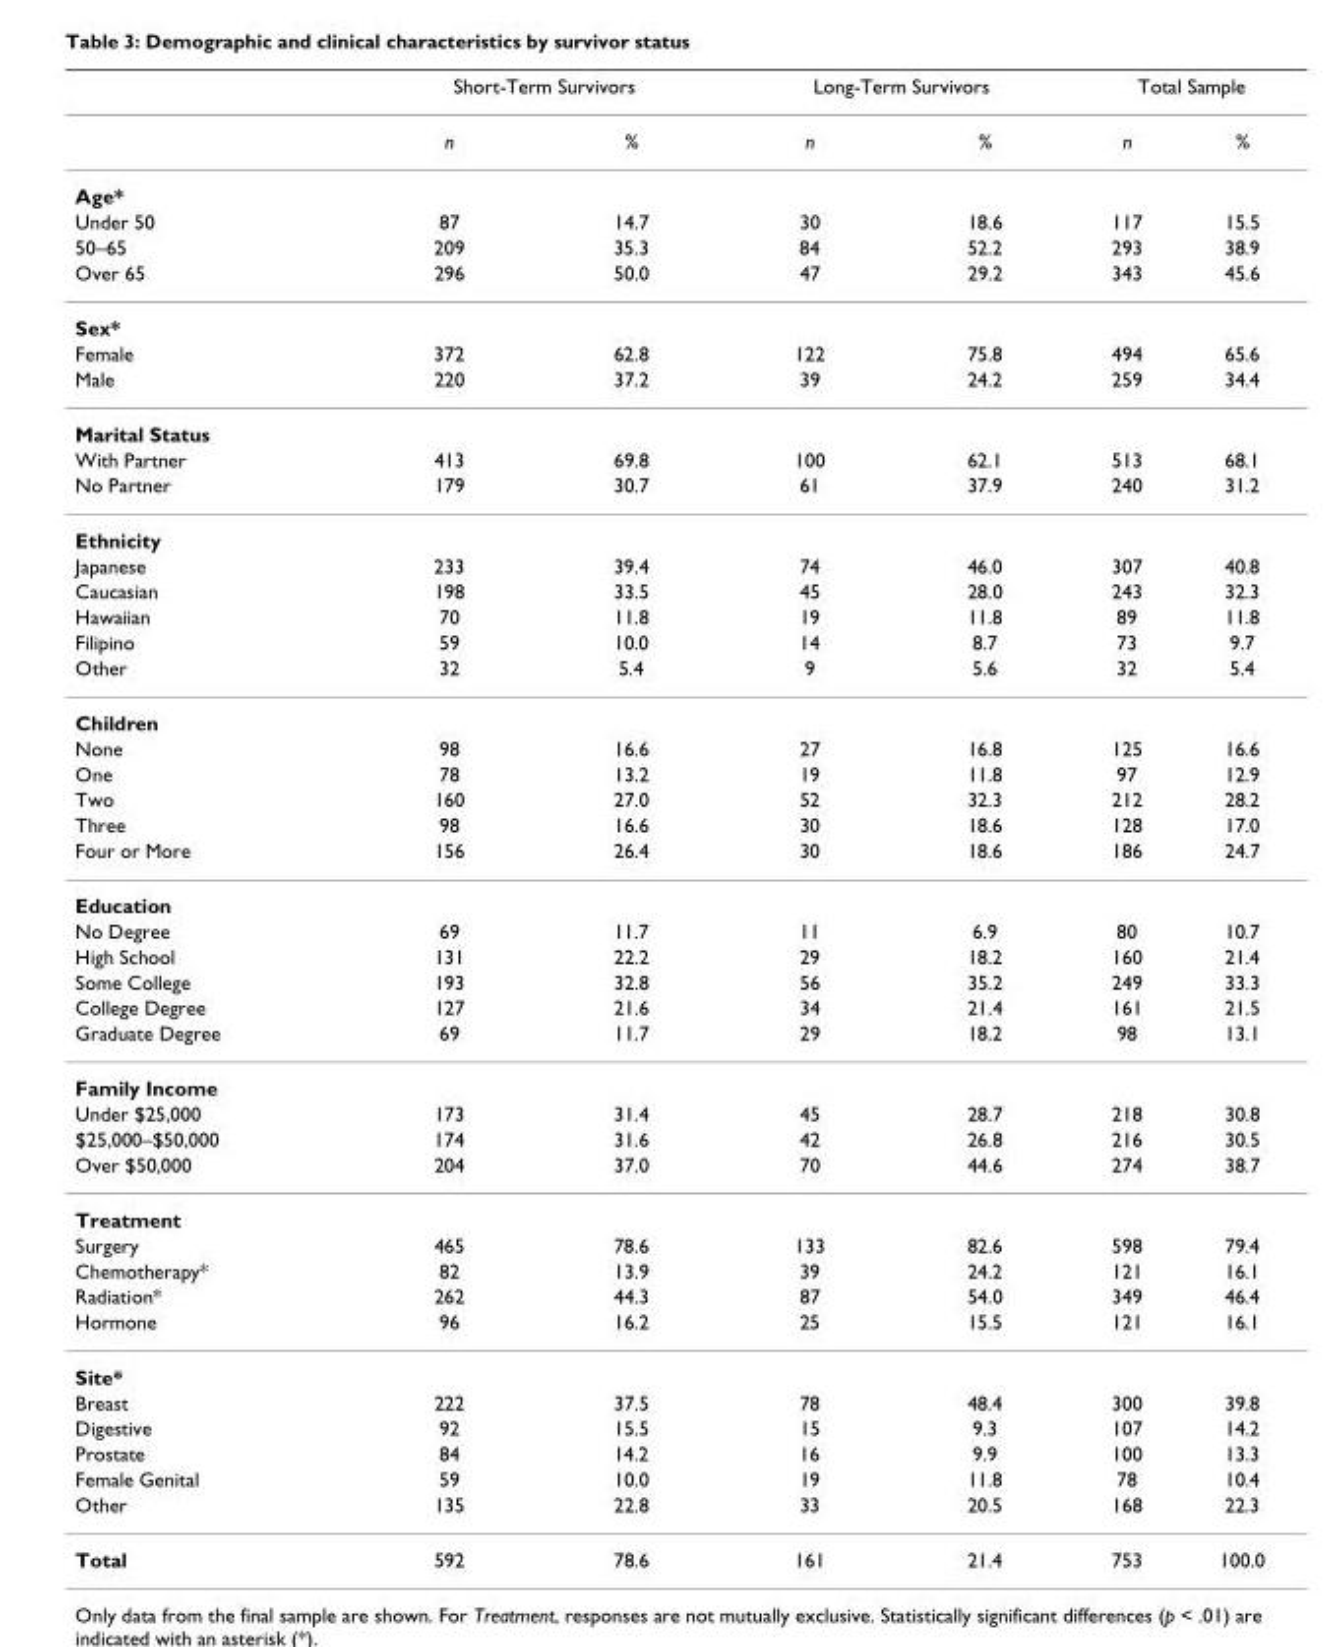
<table><thead><tr><td rowspan="2"></td><td colspan="2">Short-Term Survivors</td><td colspan="2">Long-Term Survivors</td><td colspan="2">Total Sample</td></tr><tr><td>n</td><td>%</td><td>n</td><td>%</td><td>n</td><td>%</td></tr></thead><tbody><tr><td colspan="7">Age*</td></tr><tr><td>Under 50</td><td>87</td><td>14.7</td><td>30</td><td>18.6</td><td>117</td><td>15.5</td></tr><tr><td>50–65</td><td>209</td><td>35.3</td><td>84</td><td>52.2</td><td>293</td><td>38.9</td></tr><tr><td>Over 65</td><td>296</td><td>50.0</td><td>47</td><td>29.2</td><td>343</td><td>45.6</td></tr><tr><td colspan="7">Sex*</td></tr><tr><td>Female</td><td>372</td><td>62.8</td><td>122</td><td>75.8</td><td>494</td><td>65.6</td></tr><tr><td>Male</td><td>220</td><td>37.2</td><td>39</td><td>24.2</td><td>259</td><td>34.4</td></tr><tr><td colspan="7">Marital Status</td></tr><tr><td>With Partner</td><td>413</td><td>69.8</td><td>100</td><td>62.1</td><td>513</td><td>68.1</td></tr><tr><td>No Partner</td><td>179</td><td>30.7</td><td>61</td><td>37.9</td><td>240</td><td>31.2</td></tr><tr><td colspan="7">Ethnicity</td></tr><tr><td>Japanese</td><td>233</td><td>39.4</td><td>74</td><td>46.0</td><td>307</td><td>40.8</td></tr><tr><td>Caucasian</td><td>198</td><td>33.5</td><td>45</td><td>28.0</td><td>243</td><td>32.3</td></tr><tr><td>Hawaiian</td><td>70</td><td>11.8</td><td>19</td><td>11.8</td><td>89</td><td>11.8</td></tr><tr><td>Filipino</td><td>59</td><td>10.0</td><td>14</td><td>8.7</td><td>73</td><td>9.7</td></tr><tr><td>Other</td><td>32</td><td>5.4</td><td>9</td><td>5.6</td><td>32</td><td>5.4</td></tr><tr><td colspan="7">Children</td></tr><tr><td>None</td><td>98</td><td>16.6</td><td>27</td><td>16.8</td><td>125</td><td>16.6</td></tr><tr><td>One</td><td>78</td><td>13.2</td><td>19</td><td>11.8</td><td>97</td><td>12.9</td></tr><tr><td>Two</td><td>160</td><td>27.0</td><td>52</td><td>32.3</td><td>212</td><td>28.2</td></tr><tr><td>Three</td><td>98</td><td>16.6</td><td>30</td><td>18.6</td><td>128</td><td>17.0</td></tr><tr><td>Four or More</td><td>156</td><td>26.4</td><td>30</td><td>18.6</td><td>186</td><td>24.7</td></tr><tr><td colspan="7">Education</td></tr><tr><td>No Degree</td><td>69</td><td>11.7</td><td>11</td><td>6.9</td><td>80</td><td>10.7</td></tr><tr><td>High School</td><td>131</td><td>22.2</td><td>29</td><td>18.2</td><td>160</td><td>21.4</td></tr><tr><td>Some College</td><td>193</td><td>32.8</td><td>56</td><td>35.2</td><td>249</td><td>33.3</td></tr><tr><td>College Degree</td><td>127</td><td>21.6</td><td>34</td><td>21.4</td><td>161</td><td>21.5</td></tr><tr><td>Graduate Degree</td><td>69</td><td>11.7</td><td>29</td><td>18.2</td><td>98</td><td>13.1</td></tr><tr><td colspan="7">Family Income</td></tr><tr><td>Under $25,000</td><td>173</td><td>31.4</td><td>45</td><td>28.7</td><td>218</td><td>30.8</td></tr><tr><td>$25,000–$50,000</td><td>174</td><td>31.6</td><td>42</td><td>26.8</td><td>216</td><td>30.5</td></tr><tr><td>Over $50,000</td><td>204</td><td>37.0</td><td>70</td><td>44.6</td><td>274</td><td>38.7</td></tr><tr><td colspan="7">Treatment</td></tr><tr><td>Surgery</td><td>465</td><td>78.6</td><td>133</td><td>82.6</td><td>598</td><td>79.4</td></tr><tr><td>Chemotherapy*</td><td>82</td><td>13.9</td><td>39</td><td>24.2</td><td>121</td><td>16.1</td></tr><tr><td>Radiation*</td><td>262</td><td>44.3</td><td>87</td><td>54.0</td><td>349</td><td>46.4</td></tr><tr><td>Hormone</td><td>96</td><td>16.2</td><td>25</td><td>15.5</td><td>121</td><td>16.1</td></tr><tr><td colspan="7">Site*</td></tr><tr><td>Breast</td><td>222</td><td>37.5</td><td>78</td><td>48.4</td><td>300</td><td>39.8</td></tr><tr><td>Digestive</td><td>92</td><td>15.5</td><td>15</td><td>9.3</td><td>107</td><td>14.2</td></tr><tr><td>Prostate</td><td>84</td><td>14.2</td><td>16</td><td>9.9</td><td>100</td><td>13.3</td></tr><tr><td>Female Genital</td><td>59</td><td>10.0</td><td>19</td><td>11.8</td><td>78</td><td>10.4</td></tr><tr><td>Other</td><td>135</td><td>22.8</td><td>33</td><td>20.5</td><td>168</td><td>22.3</td></tr><tr><td>Total</td><td>592</td><td>78.6</td><td>161</td><td>21.4</td><td>753</td><td>100.0</td></tr></tbody></table>